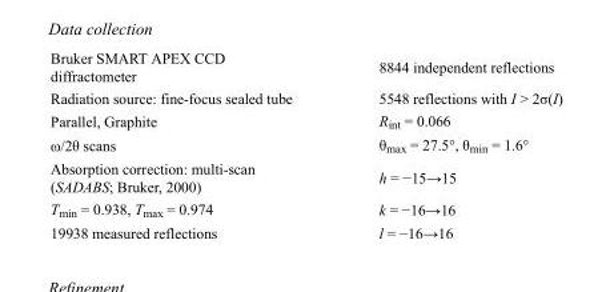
<table><tbody><tr><td>Bruker SMART APEX CCD diffractometer</td><td>8844 independent reflections</td></tr><tr><td>Radiation source: fine-focus sealed tube</td><td>5548 reflections with I &gt; 2σ(I)</td></tr><tr><td>Parallel, Graphite</td><td>R<sub>int</sub> = 0.066</td></tr><tr><td>ω/2θ scans</td><td>θ<sub>max</sub> = 27.5°, θ<sub>min</sub> = 1.6°</td></tr><tr><td>Absorption correction: multi-scan (SADABS; Bruker, 2000)</td><td>h = −15→15</td></tr><tr><td>T<sub>min</sub> = 0.938, T<sub>max</sub> = 0.974</td><td>k = −16→16</td></tr><tr><td>19938 measured reflections</td><td>l = −16→16</td></tr></tbody></table>